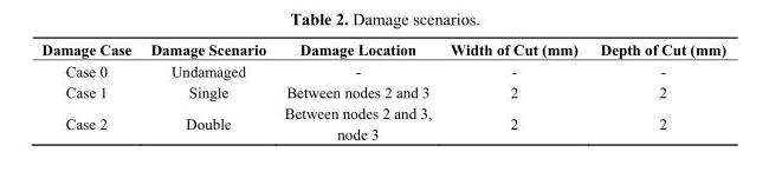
<table><thead><tr><td>Damage Case</td><td>Damage Scenario</td><td>Damage Location</td><td>Width of Cut (mm)</td><td>Depth of Cut (mm)</td></tr></thead><tbody><tr><td>Case 0</td><td>Undamaged</td><td>-</td><td>-</td><td>-</td></tr><tr><td>Case 1</td><td>Single</td><td>Between nodes 2 and 3</td><td>2</td><td>2</td></tr><tr><td>Case 2</td><td>Double</td><td>Between nodes 2 and 3, node 3</td><td>2</td><td>2</td></tr></tbody></table>